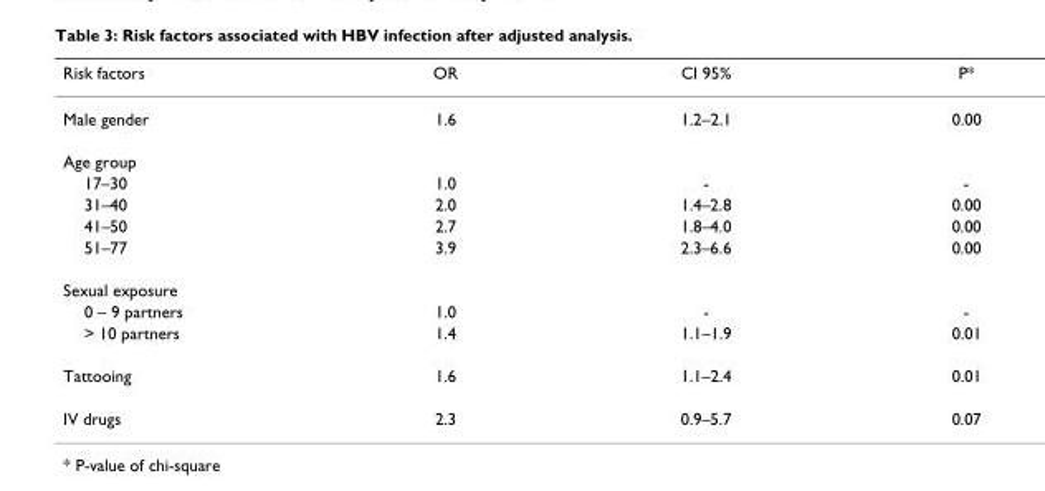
<table><thead><tr><td>Risk factors</td><td>OR</td><td>CI 95%</td><td>P*</td></tr></thead><tbody><tr><td>Male gender</td><td>1.6</td><td>1.2–2.1</td><td>0.00</td></tr><tr><td colspan="4">Age group</td></tr><tr><td>17–30</td><td>1.0</td><td>-</td><td>-</td></tr><tr><td>31–40</td><td>2.0</td><td>1.4–2.8</td><td>0.00</td></tr><tr><td>41–50</td><td>2.7</td><td>1.8–4.0</td><td>0.00</td></tr><tr><td>51–77</td><td>3.9</td><td>2.3–6.6</td><td>0.00</td></tr><tr><td colspan="4">Sexual exposure</td></tr><tr><td>0 – 9 partners</td><td>1.0</td><td>-</td><td>-</td></tr><tr><td>&gt; 10 partners</td><td>1.4</td><td>1.1–1.9</td><td>0.01</td></tr><tr><td>Tattooing</td><td>1.6</td><td>1.1–2.4</td><td>0.01</td></tr><tr><td>IV drugs</td><td>2.3</td><td>0.9–5.7</td><td>0.07</td></tr></tbody></table>